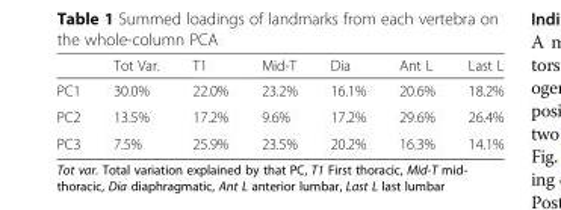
<table><thead><tr><td></td><td>Tot Var.</td><td>T1</td><td>Mid-T</td><td>Dia</td><td>Ant L</td><td>Last L</td></tr></thead><tbody><tr><td>PC1</td><td>30.0%</td><td>22.0%</td><td>23.2%</td><td>16.1%</td><td>20.6%</td><td>18.2%</td></tr><tr><td>PC2</td><td>13.5%</td><td>17.2%</td><td>9.6%</td><td>17.2%</td><td>29.6%</td><td>26.4%</td></tr><tr><td>PC3</td><td>7.5%</td><td>25.9%</td><td>23.5%</td><td>20.2%</td><td>16.3%</td><td>14.1%</td></tr></tbody></table>